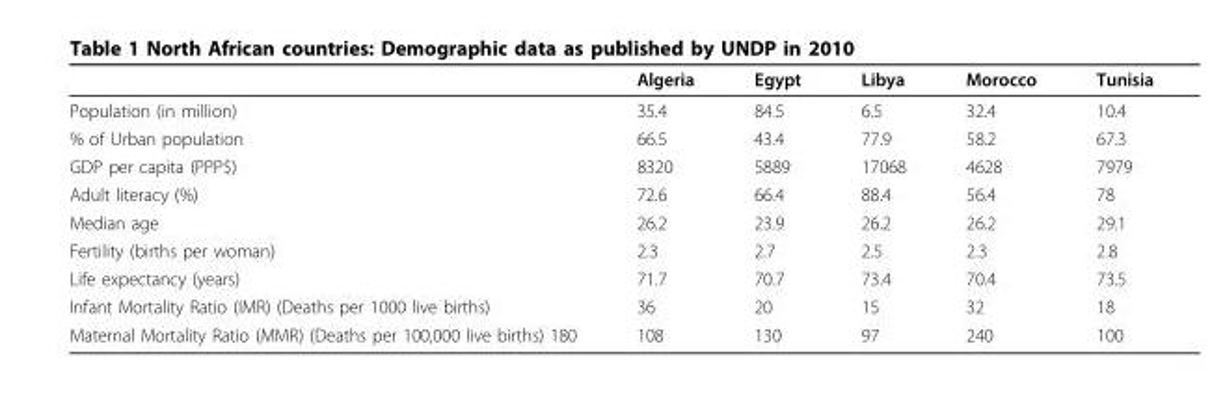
<table><thead><tr><td></td><td>Algeria</td><td>Egypt</td><td>Libya</td><td>Morocco</td><td>Tunisia</td></tr></thead><tbody><tr><td>Population (in million)</td><td>35.4</td><td>84.5</td><td>6.5</td><td>32.4</td><td>10.4</td></tr><tr><td>% of Urban population</td><td>66.5</td><td>43.4</td><td>77.9</td><td>58.2</td><td>67.3</td></tr><tr><td>GDP per capita (PPP$)</td><td>8320</td><td>5889</td><td>17068</td><td>4628</td><td>7979</td></tr><tr><td>Adult literacy (%)</td><td>72.6</td><td>66.4</td><td>88.4</td><td>56.4</td><td>78</td></tr><tr><td>Median age</td><td>26.2</td><td>23.9</td><td>26.2</td><td>26.2</td><td>29.1</td></tr><tr><td>Fertility (births per woman)</td><td>2.3</td><td>2.7</td><td>2.5</td><td>2.3</td><td>2.8</td></tr><tr><td>Life expectancy (years)</td><td>71.7</td><td>70.7</td><td>73.4</td><td>70.4</td><td>73.5</td></tr><tr><td>Infant Mortality Ratio (IMR) (Deaths per 1000 live births)</td><td>36</td><td>20</td><td>15</td><td>32</td><td>18</td></tr><tr><td>Maternal Mortality Ratio (MMR) (Deaths per 100,000 live births) 180</td><td>108</td><td>130</td><td>97</td><td>240</td><td>100</td></tr></tbody></table>